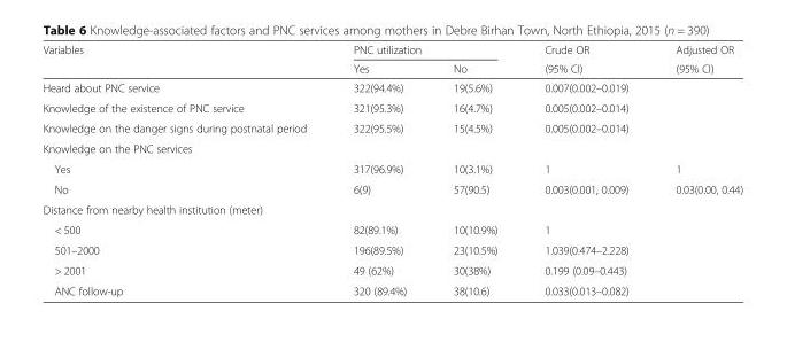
<table><thead><tr><td rowspan="2">Variables</td><td colspan="2">PNC utilization</td><td rowspan="2">Crude OR (95% CI)</td><td rowspan="2">Adjusted OR (95% CI)</td></tr><tr><td>Yes</td><td>No</td></tr></thead><tbody><tr><td>Heard about PNC service</td><td>322(94.4%)</td><td>19(5.6%)</td><td>0.007(0.002–0.019)</td><td></td></tr><tr><td>Knowledge of the existence of PNC service</td><td>321(95.3%)</td><td>16(4.7%)</td><td>0.005(0.002–0.014)</td><td></td></tr><tr><td>Knowledge on the danger signs during postnatal period</td><td>322(95.5%)</td><td>15(4.5%)</td><td>0.005(0.002–0.014)</td><td></td></tr><tr><td colspan="5">Knowledge on the PNC services</td></tr><tr><td>Yes</td><td>317(96.9%)</td><td>10(3.1%)</td><td>1</td><td>1</td></tr><tr><td>No</td><td>6(9)</td><td>57(90.5)</td><td>0.003(0.001, 0.009)</td><td>0.03(0.00, 0.44)</td></tr><tr><td colspan="5">Distance from nearby health institution (meter)</td></tr><tr><td>&lt; 500</td><td>82(89.1%)</td><td>10(10.9%)</td><td>1</td><td></td></tr><tr><td>501–2000</td><td>196(89.5%)</td><td>23(10.5%)</td><td>1.039(0.474–2.228)</td><td></td></tr><tr><td>&gt; 2001</td><td>49 (62%)</td><td>30(38%)</td><td>0.199 (0.09–0.443)</td><td></td></tr><tr><td>ANC follow-up</td><td>320 (89.4%)</td><td>38(10.6)</td><td>0.033(0.013–0.082)</td><td></td></tr></tbody></table>